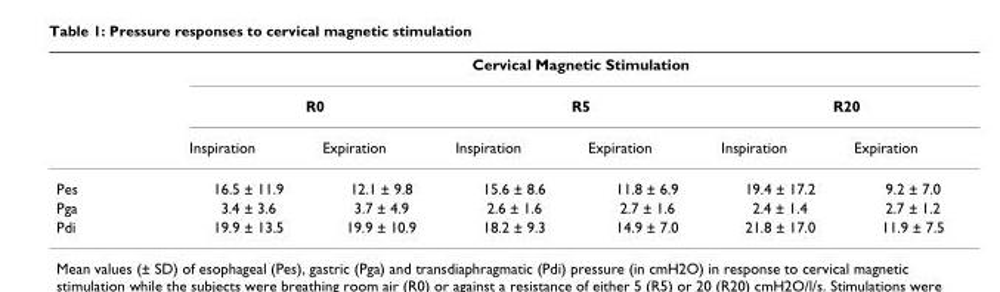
<table><thead><tr><td rowspan="3"></td><td colspan="6">Cervical Magnetic Stimulation</td></tr><tr><td colspan="2">R0</td><td colspan="2">R5</td><td colspan="2">R20</td></tr><tr><td>Inspiration</td><td>Expiration</td><td>Inspiration</td><td>Expiration</td><td>Inspiration</td><td>Expiration</td></tr></thead><tbody><tr><td>Pes</td><td>16.5 ± 11.9</td><td>12.1 ± 9.8</td><td>15.6 ± 8.6</td><td>11.8 ± 6.9</td><td>19.4 ± 17.2</td><td>9.2 ± 7.0</td></tr><tr><td>Pga</td><td>3.4 ± 3.6</td><td>3.7 ± 4.9</td><td>2.6 ± 1.6</td><td>2.7 ± 1.6</td><td>2.4 ± 1.4</td><td>2.7 ± 1.2</td></tr><tr><td>Pdi</td><td>19.9 ± 13.5</td><td>19.9 ± 10.9</td><td>18.2 ± 9.3</td><td>14.9 ± 7.0</td><td>21.8 ± 17.0</td><td>11.9 ± 7.5</td></tr></tbody></table>